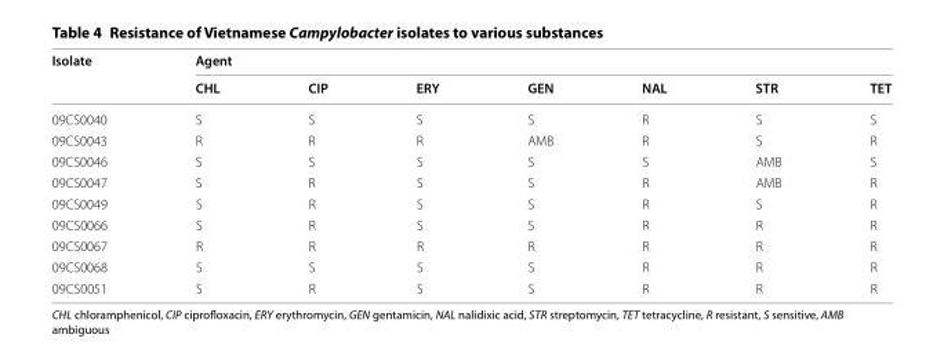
<table><thead><tr><td rowspan="2">Isolate</td><td colspan="7">Agent</td></tr><tr><td>CHL</td><td>CIP</td><td>ERY</td><td>GEN</td><td>NAL</td><td>STR</td><td>TET</td></tr></thead><tbody><tr><td>09CS0040</td><td>S</td><td>S</td><td>S</td><td>S</td><td>R</td><td>S</td><td>S</td></tr><tr><td>09CS0043</td><td>R</td><td>R</td><td>R</td><td>AMB</td><td>R</td><td>S</td><td>R</td></tr><tr><td>09CS0046</td><td>S</td><td>S</td><td>S</td><td>S</td><td>S</td><td>AMB</td><td>S</td></tr><tr><td>09CS0047</td><td>S</td><td>R</td><td>S</td><td>S</td><td>R</td><td>AMB</td><td>R</td></tr><tr><td>09CS0049</td><td>S</td><td>R</td><td>S</td><td>S</td><td>R</td><td>S</td><td>R</td></tr><tr><td>09CS0066</td><td>S</td><td>R</td><td>S</td><td>S</td><td>R</td><td>R</td><td>R</td></tr><tr><td>09CS0067</td><td>R</td><td>R</td><td>R</td><td>R</td><td>R</td><td>R</td><td>R</td></tr><tr><td>09CS0068</td><td>S</td><td>S</td><td>S</td><td>S</td><td>R</td><td>R</td><td>R</td></tr><tr><td>09CS0051</td><td>S</td><td>R</td><td>S</td><td>S</td><td>R</td><td>R</td><td>R</td></tr></tbody></table>